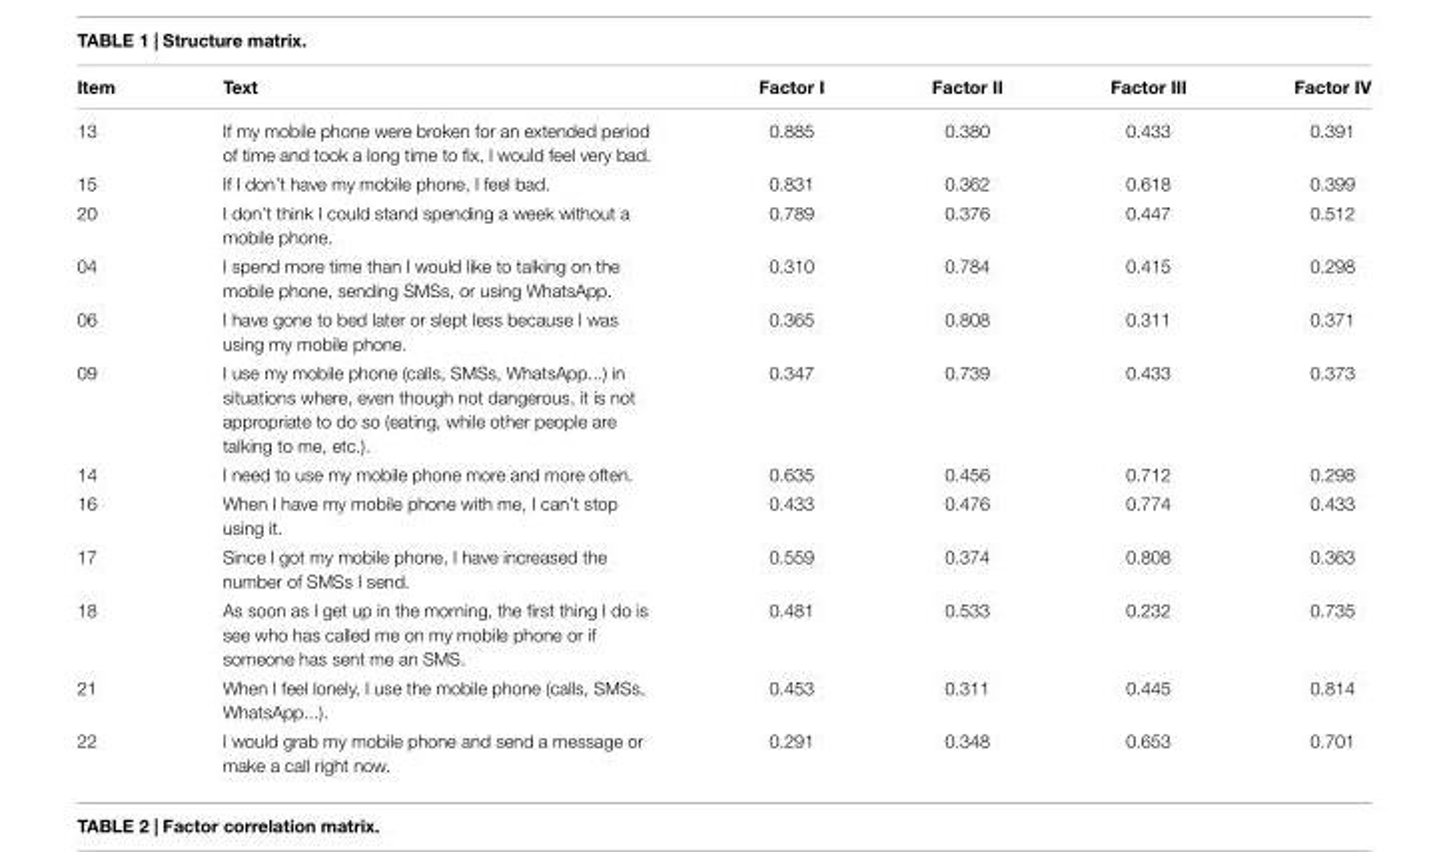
<table><thead><tr><td>Item</td><td>Text</td><td>Factor I</td><td>Factor II</td><td>Factor III</td><td>Factor IV</td></tr></thead><tbody><tr><td>13</td><td>If my mobile phone were broken for an extended period of time and took a long time to fix, I would feel very bad.</td><td>0.885</td><td>0.380</td><td>0.433</td><td>0.391</td></tr><tr><td>15</td><td>If I don’t have my mobile phone, I feel bad.</td><td>0.831</td><td>0.362</td><td>0.618</td><td>0.399</td></tr><tr><td>20</td><td>I don’t think I could stand spending a week without a mobile phone.</td><td>0.789</td><td>0.376</td><td>0.447</td><td>0.512</td></tr><tr><td>04</td><td>I spend more time than I would like to talking on the mobile phone, sending SMSs, or using WhatsApp.</td><td>0.310</td><td>0.784</td><td>0.415</td><td>0.298</td></tr><tr><td>06</td><td>I have gone to bed later or slept less because I was using my mobile phone.</td><td>0.365</td><td>0.808</td><td>0.311</td><td>0.371</td></tr><tr><td>09</td><td>I use my mobile phone (calls, SMSs, WhatsApp...) in situations where, even though not dangerous, it is not appropriate to do so (eating, while other people are talking to me, etc.).</td><td>0.347</td><td>0.739</td><td>0.433</td><td>0.373</td></tr><tr><td>14</td><td>I need to use my mobile phone more and more often.</td><td>0.635</td><td>0.456</td><td>0.712</td><td>0.298</td></tr><tr><td>16</td><td>When I have my mobile phone with me, I can’t stop using it.</td><td>0.433</td><td>0.476</td><td>0.774</td><td>0.433</td></tr><tr><td>17</td><td>Since I got my mobile phone, I have increased the number of SMSs I send.</td><td>0.559</td><td>0.374</td><td>0.808</td><td>0.363</td></tr><tr><td>18</td><td>As soon as I get up in the morning, the first thing I do is see who has called me on my mobile phone or if someone has sent me an SMS.</td><td>0.481</td><td>0.533</td><td>0.232</td><td>0.735</td></tr><tr><td>21</td><td>When I feel lonely, I use the mobile phone (calls, SMSs, WhatsApp...).</td><td>0.453</td><td>0.311</td><td>0.445</td><td>0.814</td></tr><tr><td>22</td><td>I would grab my mobile phone and send a message or make a call right now.</td><td>0.291</td><td>0.348</td><td>0.653</td><td>0.701</td></tr></tbody></table>